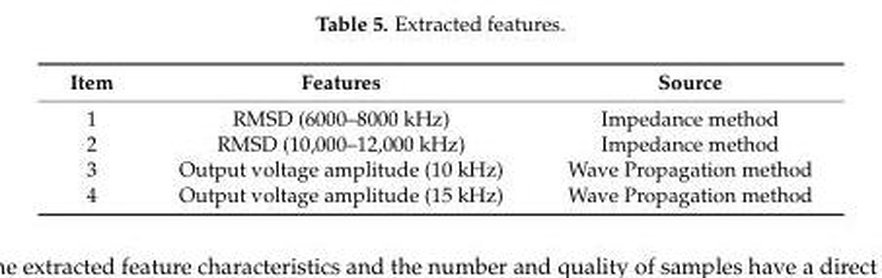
<table><thead><tr><td>Item</td><td>Features</td><td>Source</td></tr></thead><tbody><tr><td>1</td><td>RMSD (6000–8000 kHz)</td><td>Impedance method</td></tr><tr><td>2</td><td>RMSD (10,000–12,000 kHz)</td><td>Impedance method</td></tr><tr><td>3</td><td>Output voltage amplitude (10 kHz)</td><td>Wave Propagation method</td></tr><tr><td>4</td><td>Output voltage amplitude (15 kHz)</td><td>Wave Propagation method</td></tr></tbody></table>